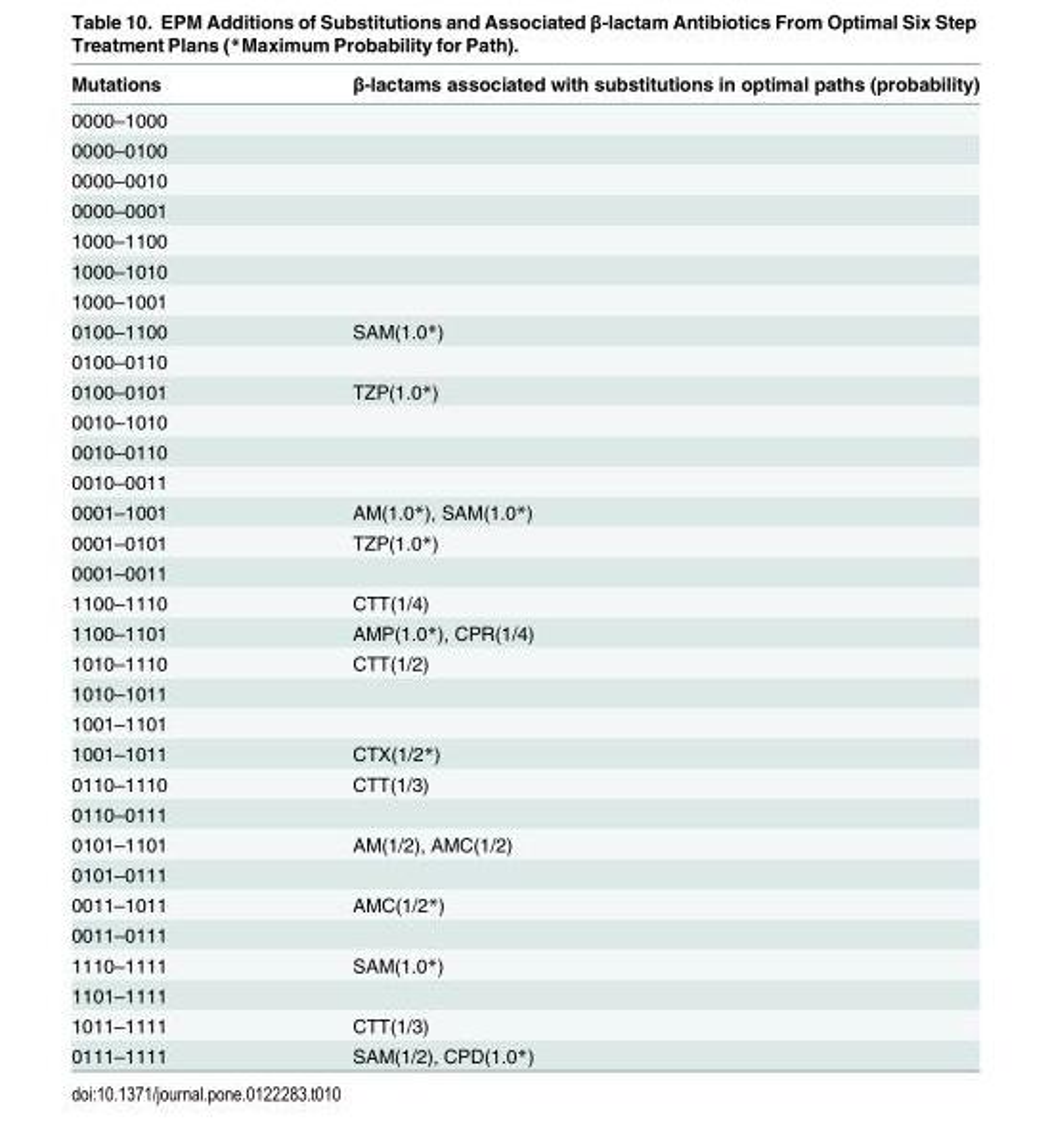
<table><thead><tr><td>Mutations</td><td>β-lactams associated with substitutions in optimal paths (probability)</td></tr></thead><tbody><tr><td colspan="2">0000–1000</td></tr><tr><td colspan="2">0000–0100</td></tr><tr><td colspan="2">0000–0010</td></tr><tr><td colspan="2">0000–0001</td></tr><tr><td colspan="2">1000–1100</td></tr><tr><td colspan="2">1000–1010</td></tr><tr><td colspan="2">1000–1001</td></tr><tr><td>0100–1100</td><td>SAM(1.0*)</td></tr><tr><td colspan="2">0100–0110</td></tr><tr><td>0100–0101</td><td>TZP(1.0*)</td></tr><tr><td colspan="2">0010–1010</td></tr><tr><td colspan="2">0010–0110</td></tr><tr><td colspan="2">0010–0011</td></tr><tr><td>0001–1001</td><td>AM(1.0*), SAM(1.0*)</td></tr><tr><td>0001–0101</td><td>TZP(1.0*)</td></tr><tr><td colspan="2">0001–0011</td></tr><tr><td>1100–1110</td><td>CTT(1/4)</td></tr><tr><td>1100–1101</td><td>AMP(1.0*), CPR(1/4)</td></tr><tr><td>1010–1110</td><td>CTT(1/2)</td></tr><tr><td colspan="2">1010–1011</td></tr><tr><td colspan="2">1001–1101</td></tr><tr><td>1001–1011</td><td>CTX(1/2*)</td></tr><tr><td>0110–1110</td><td>CTT(1/3)</td></tr><tr><td colspan="2">0110–0111</td></tr><tr><td>0101–1101</td><td>AM(1/2), AMC(1/2)</td></tr><tr><td colspan="2">0101–0111</td></tr><tr><td>0011–1011</td><td>AMC(1/2*)</td></tr><tr><td colspan="2">0011–0111</td></tr><tr><td>1110–1111</td><td>SAM(1.0*)</td></tr><tr><td colspan="2">1101–1111</td></tr><tr><td>1011–1111</td><td>CTT(1/3)</td></tr><tr><td>0111–1111</td><td>SAM(1/2), CPD(1.0*)</td></tr></tbody></table>